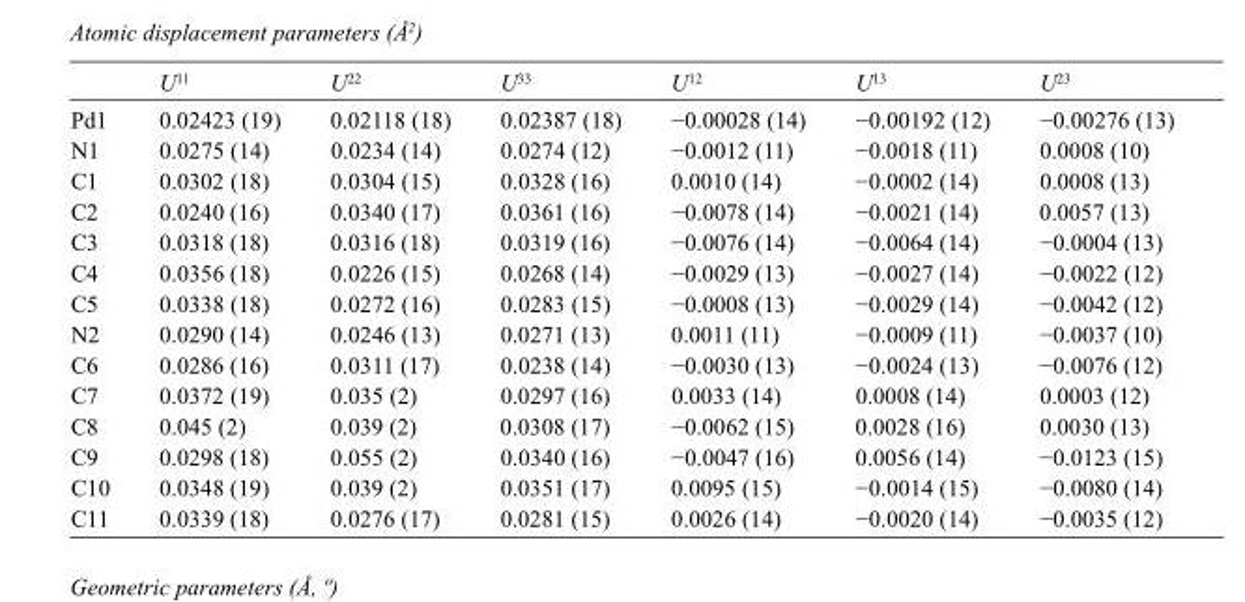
<table><thead><tr><td></td><td>U<sup>11</sup></td><td>U<sup>22</sup></td><td>U<sup>33</sup></td><td>U<sup>12</sup></td><td>U<sup>13</sup></td><td>U<sup>23</sup></td></tr></thead><tbody><tr><td>Pd1</td><td>0.02423 (19)</td><td>0.02118 (18)</td><td>0.02387 (18)</td><td>−0.00028 (14)</td><td>−0.00192 (12)</td><td>−0.00276 (13)</td></tr><tr><td>N1</td><td>0.0275 (14)</td><td>0.0234 (14)</td><td>0.0274 (12)</td><td>−0.0012 (11)</td><td>−0.0018 (11)</td><td>0.0008 (10)</td></tr><tr><td>C1</td><td>0.0302 (18)</td><td>0.0304 (15)</td><td>0.0328 (16)</td><td>0.0010 (14)</td><td>−0.0002 (14)</td><td>0.0008 (13)</td></tr><tr><td>C2</td><td>0.0240 (16)</td><td>0.0340 (17)</td><td>0.0361 (16)</td><td>−0.0078 (14)</td><td>−0.0021 (14)</td><td>0.0057 (13)</td></tr><tr><td>C3</td><td>0.0318 (18)</td><td>0.0316 (18)</td><td>0.0319 (16)</td><td>−0.0076 (14)</td><td>−0.0064 (14)</td><td>−0.0004 (13)</td></tr><tr><td>C4</td><td>0.0356 (18)</td><td>0.0226 (15)</td><td>0.0268 (14)</td><td>−0.0029 (13)</td><td>−0.0027 (14)</td><td>−0.0022 (12)</td></tr><tr><td>C5</td><td>0.0338 (18)</td><td>0.0272 (16)</td><td>0.0283 (15)</td><td>−0.0008 (13)</td><td>−0.0029 (14)</td><td>−0.0042 (12)</td></tr><tr><td>N2</td><td>0.0290 (14)</td><td>0.0246 (13)</td><td>0.0271 (13)</td><td>0.0011 (11)</td><td>−0.0009 (11)</td><td>−0.0037 (10)</td></tr><tr><td>C6</td><td>0.0286 (16)</td><td>0.0311 (17)</td><td>0.0238 (14)</td><td>−0.0030 (13)</td><td>−0.0024 (13)</td><td>−0.0076 (12)</td></tr><tr><td>C7</td><td>0.0372 (19)</td><td>0.035 (2)</td><td>0.0297 (16)</td><td>0.0033 (14)</td><td>0.0008 (14)</td><td>0.0003 (12)</td></tr><tr><td>C8</td><td>0.045 (2)</td><td>0.039 (2)</td><td>0.0308 (17)</td><td>−0.0062 (15)</td><td>0.0028 (16)</td><td>0.0030 (13)</td></tr><tr><td>C9</td><td>0.0298 (18)</td><td>0.055 (2)</td><td>0.0340 (16)</td><td>−0.0047 (16)</td><td>0.0056 (14)</td><td>−0.0123 (15)</td></tr><tr><td>C10</td><td>0.0348 (19)</td><td>0.039 (2)</td><td>0.0351 (17)</td><td>0.0095 (15)</td><td>−0.0014 (15)</td><td>−0.0080 (14)</td></tr><tr><td>C11</td><td>0.0339 (18)</td><td>0.0276 (17)</td><td>0.0281 (15)</td><td>0.0026 (14)</td><td>−0.0020 (14)</td><td>−0.0035 (12)</td></tr></tbody></table>